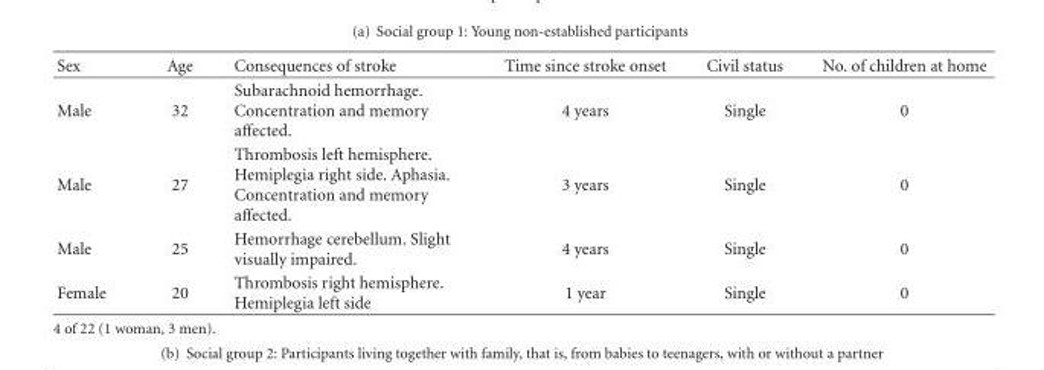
<table><thead><tr><td>Sex</td><td>Age</td><td>Consequences of stroke</td><td>Time since stroke onset</td><td>Civil status</td><td>No. of children at home</td></tr></thead><tbody><tr><td>Male</td><td>32</td><td>Subarachnoid hemorrhage. Concentration and memory affected.</td><td>4 years</td><td>Single</td><td>0</td></tr><tr><td>Male</td><td>27</td><td>Thrombosis left hemisphere. Hemiplegia right side. Aphasia. Concentration and memory affected.</td><td>3 years</td><td>Single</td><td>0</td></tr><tr><td>Male</td><td>25</td><td>Hemorrhage cerebellum. Slight visually impaired.</td><td>4 years</td><td>Single</td><td>0</td></tr><tr><td>Female</td><td>20</td><td>Thrombosis right hemisphere. Hemiplegia left side</td><td>1 year</td><td>Single</td><td>0</td></tr></tbody></table>